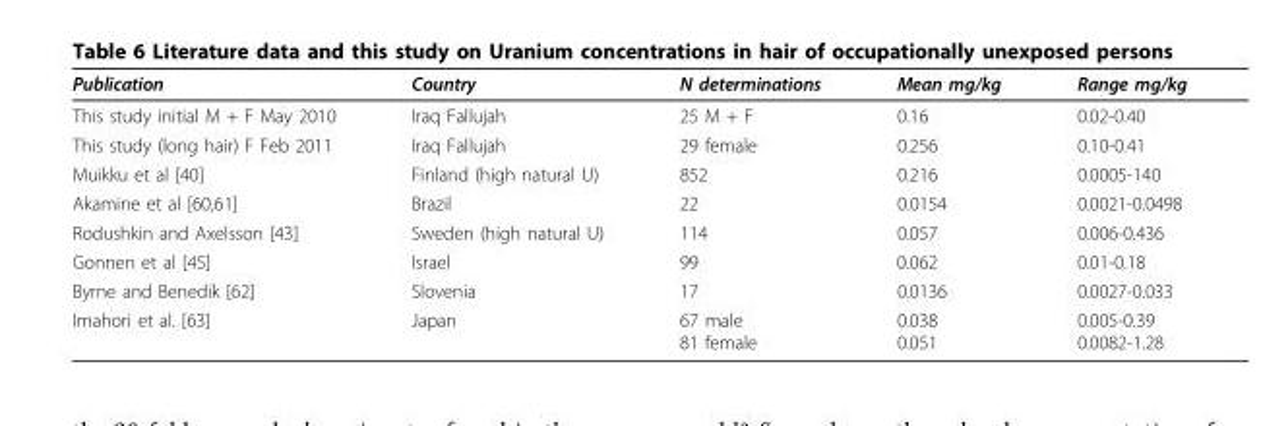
<table><thead><tr><td>Publication</td><td>Country</td><td>N determinations</td><td>Mean mg/kg</td><td>Range mg/kg</td></tr></thead><tbody><tr><td>This study initial M + F May 2010</td><td>Iraq Fallujah</td><td>25 M + F</td><td>0.16</td><td>0.02-0.40</td></tr><tr><td>This study (long hair) F Feb 2011</td><td>Iraq Fallujah</td><td>29 female</td><td>0.256</td><td>0.10-0.41</td></tr><tr><td>Muikku et al [40]</td><td>Finland (high natural U)</td><td>852</td><td>0.216</td><td>0.0005-140</td></tr><tr><td>Akamine et al [60,61]</td><td>Brazil</td><td>22</td><td>0.0154</td><td>0.0021-0.0498</td></tr><tr><td>Rodushkin and Axelsson [43]</td><td>Sweden (high natural U)</td><td>114</td><td>0.057</td><td>0.006-0.436</td></tr><tr><td>Gonnen et al [45]</td><td>Israel</td><td>99</td><td>0.062</td><td>0.01-0.18</td></tr><tr><td>Byrne and Benedik [62]</td><td>Slovenia</td><td>17</td><td>0.0136</td><td>0.0027-0.033</td></tr><tr><td>Imahori et al. [63]</td><td>Japan</td><td>67 male 81 female</td><td>0.038 0.051</td><td>0.005-0.39 0.0082-1.28</td></tr></tbody></table>